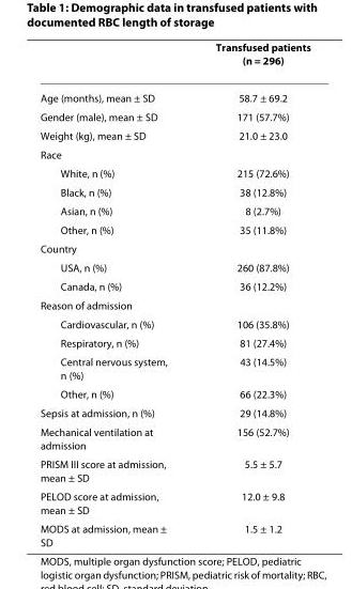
<table><thead><tr><td></td><td>Transfused patients (n = 296)</td></tr></thead><tbody><tr><td>Age (months), mean ± SD</td><td>58.7 ± 69.2</td></tr><tr><td>Gender (male), mean ± SD</td><td>171 (57.7%)</td></tr><tr><td>Weight (kg), mean ± SD</td><td>21.0 ± 23.0</td></tr><tr><td colspan="2">Race</td></tr><tr><td>White, n (%)</td><td>215 (72.6%)</td></tr><tr><td>Black, n (%)</td><td>38 (12.8%)</td></tr><tr><td>Asian, n (%)</td><td>8 (2.7%)</td></tr><tr><td>Other, n (%)</td><td>35 (11.8%)</td></tr><tr><td colspan="2">Country</td></tr><tr><td>USA, n (%)</td><td>260 (87.8%)</td></tr><tr><td>Canada, n (%)</td><td>36 (12.2%)</td></tr><tr><td colspan="2">Reason of admission</td></tr><tr><td>Cardiovascular, n (%)</td><td>106 (35.8%)</td></tr><tr><td>Respiratory, n (%)</td><td>81 (27.4%)</td></tr><tr><td>Central nervous system, n (%)</td><td>43 (14.5%)</td></tr><tr><td>Other, n (%)</td><td>66 (22.3%)</td></tr><tr><td>Sepsis at admission, n (%)</td><td>29 (14.8%)</td></tr><tr><td>Mechanical ventilation at admission</td><td>156 (52.7%)</td></tr><tr><td>PRISM III score at admission, mean ± SD</td><td>5.5 ± 5.7</td></tr><tr><td>PELOD score at admission, mean ± SD</td><td>12.0 ± 9.8</td></tr><tr><td>MODS at admission, mean ± SD</td><td>1.5 ± 1.2</td></tr></tbody></table>